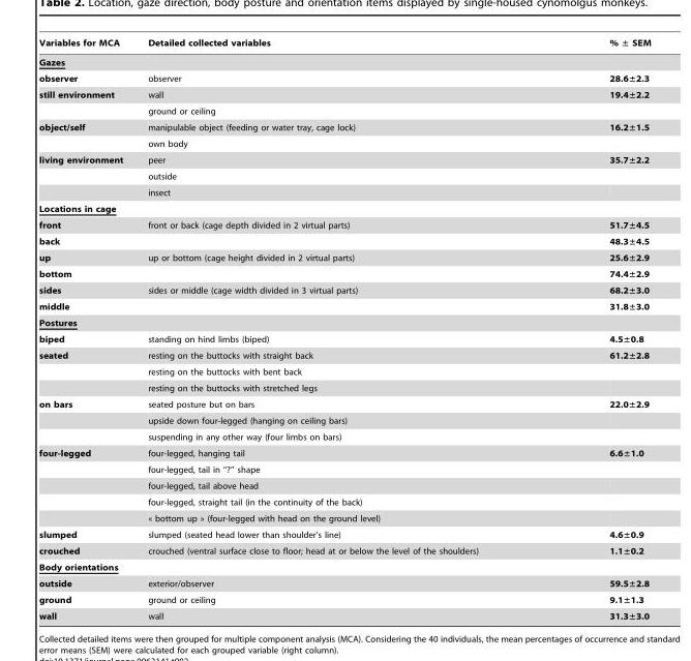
<table><thead><tr><td>Variables for MCA</td><td>Detailed collected variables</td><td>% ± SEM</td></tr></thead><tbody><tr><td colspan="3">Gazes</td></tr><tr><td>observer</td><td>observer</td><td>28.6±2.3</td></tr><tr><td rowspan="2">still environment</td><td>wall</td><td>19.4±2.2</td></tr><tr><td>ground or ceiling</td><td></td></tr><tr><td rowspan="2">object/self</td><td>manipulable object (feeding or water tray, cage lock)</td><td>16.2±1.5</td></tr><tr><td>own body</td><td></td></tr><tr><td rowspan="3">living environment</td><td>peer</td><td>35.7±2.2</td></tr><tr><td>outside</td><td></td></tr><tr><td>insect</td><td></td></tr><tr><td colspan="3">Locations in cage</td></tr><tr><td>front</td><td>front or back (cage depth divided in 2 virtual parts)</td><td>51.7±4.5</td></tr><tr><td>back</td><td></td><td>48.3±4.5</td></tr><tr><td>up</td><td>up or bottom (cage height divided in 2 virtual parts)</td><td>25.6±2.9</td></tr><tr><td>bottom</td><td></td><td>74.4±2.9</td></tr><tr><td>sides</td><td>sides or middle (cage width divided in 3 virtual parts)</td><td>68.2±3.0</td></tr><tr><td>middle</td><td></td><td>31.8±3.0</td></tr><tr><td colspan="3">Postures</td></tr><tr><td>biped</td><td>standing on hind limbs (biped)</td><td>4.5±0.8</td></tr><tr><td rowspan="3">seated</td><td>resting on the buttocks with straight back</td><td>61.2±2.8</td></tr><tr><td>resting on the buttocks with bent back</td><td></td></tr><tr><td>resting on the buttocks with stretched legs</td><td></td></tr><tr><td rowspan="3">on bars</td><td>seated posture but on bars</td><td>22.0±2.9</td></tr><tr><td>upside down four-legged (hanging on ceiling bars)</td><td></td></tr><tr><td>suspending in any other way (four limbs on bars)</td><td></td></tr><tr><td rowspan="5">four-legged</td><td>four-legged, hanging tail</td><td>6.6±1.0</td></tr><tr><td>four-legged, tail in ‘‘?’’ shape</td><td></td></tr><tr><td>four-legged, tail above head</td><td></td></tr><tr><td>four-legged, straight tail (in the continuity of the back)</td><td></td></tr><tr><td>« bottom up » (four-legged with head on the ground level)</td><td></td></tr><tr><td>slumped</td><td>slumped (seated head lower than shoulder’s line)</td><td>4.6±0.9</td></tr><tr><td>crouched</td><td>crouched (ventral surface close to floor; head at or below the level of the shoulders)</td><td>1.1±0.2</td></tr><tr><td colspan="3">Body orientations</td></tr><tr><td>outside</td><td>exterior/observer</td><td>59.5±2.8</td></tr><tr><td>ground</td><td>ground or ceiling</td><td>9.1±1.3</td></tr><tr><td>wall</td><td>wall</td><td>31.3±3.0</td></tr></tbody></table>